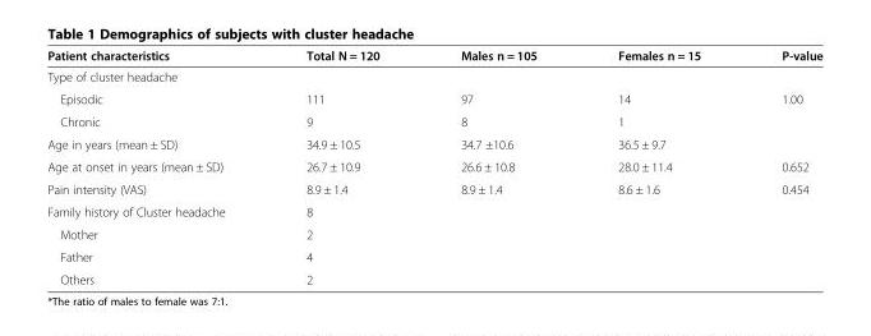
<table><thead><tr><td>Patient characteristics</td><td>Total N = 120</td><td>Males n = 105</td><td>Females n = 15</td><td>P-value</td></tr></thead><tbody><tr><td colspan="5">Type of cluster headache</td></tr><tr><td>Episodic</td><td>111</td><td>97</td><td>14</td><td>1.00</td></tr><tr><td>Chronic</td><td>9</td><td>8</td><td>1</td><td></td></tr><tr><td>Age in years (mean ± SD)</td><td>34.9 ± 10.5</td><td>34.7 ±10.6</td><td>36.5 ± 9.7</td><td></td></tr><tr><td>Age at onset in years (mean ± SD)</td><td>26.7 ± 10.9</td><td>26.6 ± 10.8</td><td>28.0 ± 11.4</td><td>0.652</td></tr><tr><td>Pain intensity (VAS)</td><td>8.9 ± 1.4</td><td>8.9 ± 1.4</td><td>8.6 ± 1.6</td><td>0.454</td></tr><tr><td>Family history of Cluster headache</td><td>8</td><td></td><td></td><td></td></tr><tr><td>Mother</td><td>2</td><td></td><td></td><td></td></tr><tr><td>Father</td><td>4</td><td></td><td></td><td></td></tr><tr><td>Others</td><td>2</td><td></td><td></td><td></td></tr></tbody></table>